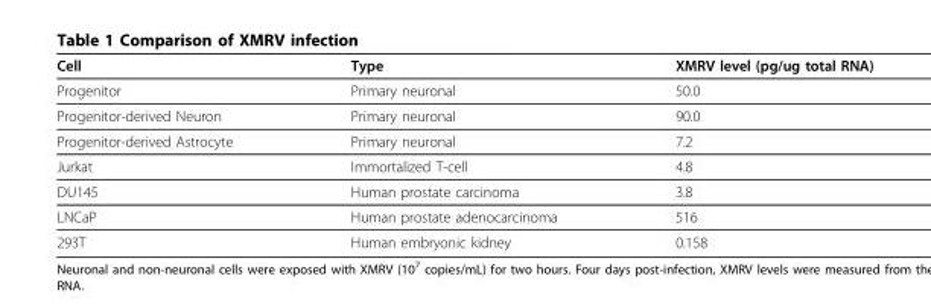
<table><thead><tr><td>Cell</td><td>Type</td><td>XMRV level (pg/ug total RNA)</td></tr></thead><tbody><tr><td>Progenitor</td><td>Primary neuronal</td><td>50.0</td></tr><tr><td>Progenitor-derived Neuron</td><td>Primary neuronal</td><td>90.0</td></tr><tr><td>Progenitor-derived Astrocyte</td><td>Primary neuronal</td><td>7.2</td></tr><tr><td>Jurkat</td><td>Immortalized T-cell</td><td>4.8</td></tr><tr><td>DU145</td><td>Human prostate carcinoma</td><td>3.8</td></tr><tr><td>LNCaP</td><td>Human prostate adenocarcinoma</td><td>516</td></tr><tr><td>293T</td><td>Human embryonic kidney</td><td>0.158</td></tr></tbody></table>